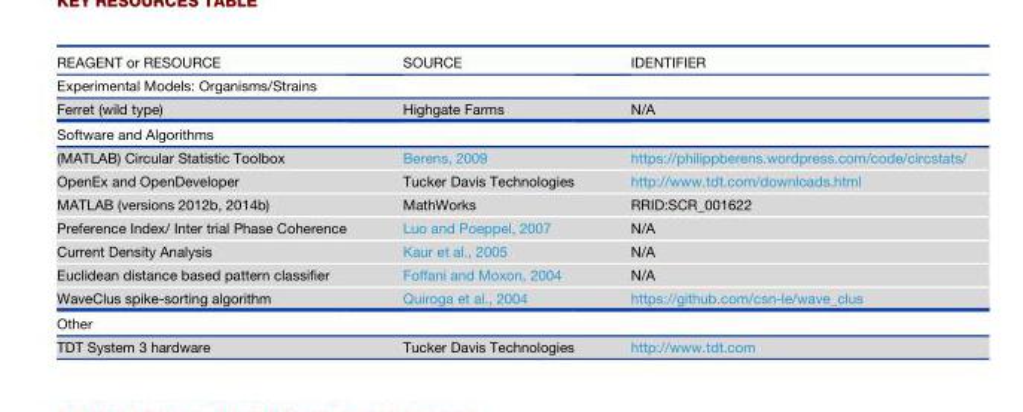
<table><thead><tr><td>REAGENT or RESOURCE</td><td>SOURCE</td><td>IDENTIFIER</td></tr></thead><tbody><tr><td colspan="3">Experimental Models: Organisms/Strains</td></tr><tr><td>Ferret (wild type)</td><td>Highgate Farms</td><td>N/A</td></tr><tr><td colspan="3">Software and Algorithms</td></tr><tr><td>(MATLAB) Circular Statistic Toolbox</td><td>Berens, 2009</td><td>https://philippberens.wordpress.com/code/circstats/</td></tr><tr><td>OpenEx and OpenDeveloper</td><td>Tucker Davis Technologies</td><td>http://www.tdt.com/downloads.html</td></tr><tr><td>MATLAB (versions 2012b, 2014b)</td><td>MathWorks</td><td>RRID:SCR_001622</td></tr><tr><td>Preference Index/ Inter trial Phase Coherence</td><td>Luo and Poeppel, 2007</td><td>N/A</td></tr><tr><td>Current Density Analysis</td><td>Kaur et al., 2005</td><td>N/A</td></tr><tr><td>Euclidean distance based pattern classifier</td><td>Foffani and Moxon, 2004</td><td>N/A</td></tr><tr><td>WaveClus spike-sorting algorithm</td><td>Quiroga et al., 2004</td><td>https://github.com/csn-le/wave_clus</td></tr><tr><td colspan="3">Other</td></tr><tr><td>TDT System 3 hardware</td><td>Tucker Davis Technologies</td><td>http://www.tdt.com</td></tr></tbody></table>